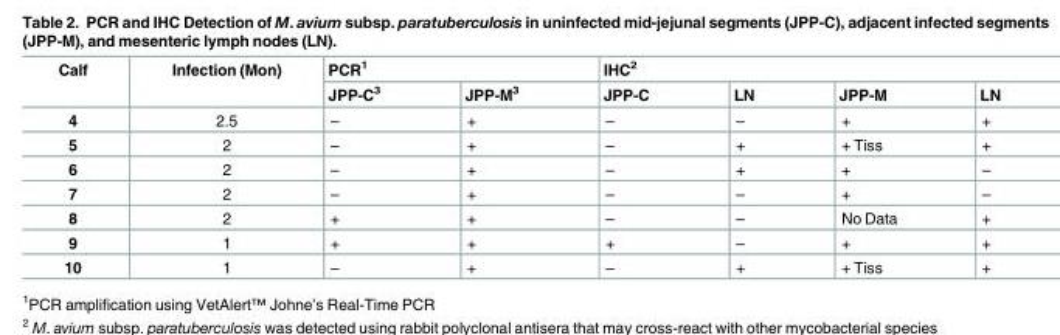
<table><thead><tr><td rowspan="2">Calf</td><td rowspan="2">Infection (Mon)</td><td colspan="2">PCR<sup>1</sup></td><td colspan="4">IHC<sup>2</sup></td></tr><tr><td>JPP-C<sup>3</sup></td><td>JPP-M<sup>3</sup></td><td>JPP-C</td><td>LN</td><td>JPP-M</td><td>LN</td></tr></thead><tbody><tr><td>4</td><td>2.5</td><td>–</td><td>+</td><td>–</td><td>–</td><td>+</td><td>+</td></tr><tr><td>5</td><td>2</td><td>–</td><td>+</td><td>–</td><td>+</td><td>+ Tiss</td><td>+</td></tr><tr><td>6</td><td>2</td><td>–</td><td>+</td><td>–</td><td>+</td><td>+</td><td>–</td></tr><tr><td>7</td><td>2</td><td>–</td><td>+</td><td>–</td><td>–</td><td>+</td><td>–</td></tr><tr><td>8</td><td>2</td><td>+</td><td>+</td><td>–</td><td>–</td><td>No Data</td><td>+</td></tr><tr><td>9</td><td>1</td><td>+</td><td>+</td><td>+</td><td>–</td><td>+</td><td>+</td></tr><tr><td>10</td><td>1</td><td>–</td><td>+</td><td>–</td><td>+</td><td>+ Tiss</td><td>+</td></tr></tbody></table>